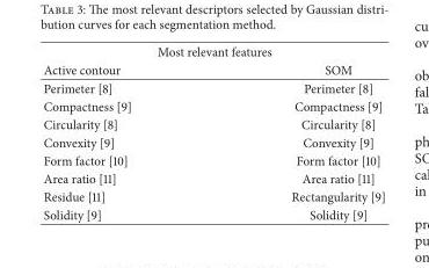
<table><thead><tr><td colspan="2">Most relevant features</td></tr><tr><td>Active contour</td><td>SOM</td></tr></thead><tbody><tr><td>Perimeter [8]</td><td>Perimeter [8]</td></tr><tr><td>Compactness [9]</td><td>Compactness [9]</td></tr><tr><td>Circularity [8]</td><td>Circularity [8]</td></tr><tr><td>Convexity [9]</td><td>Convexity [9]</td></tr><tr><td>Form factor [10]</td><td>Form factor [10]</td></tr><tr><td>Area ratio [11]</td><td>Area ratio [11]</td></tr><tr><td>Residue [11]</td><td>Rectangularity [9]</td></tr><tr><td>Solidity [9]</td><td>Solidity [9]</td></tr></tbody></table>